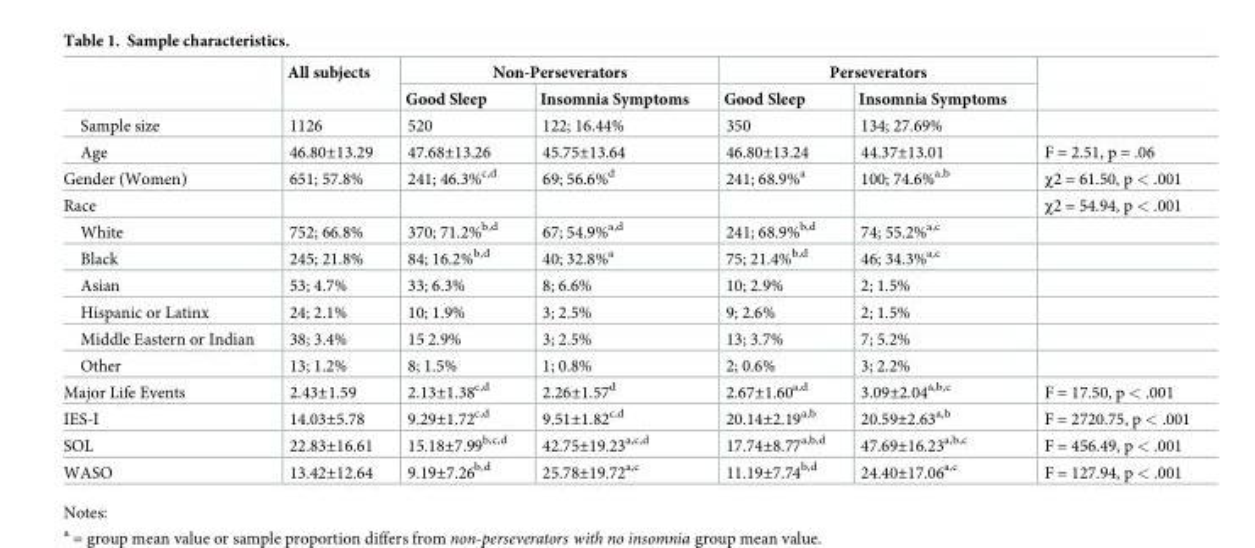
<table><thead><tr><td rowspan="2"></td><td rowspan="2">All subjects</td><td colspan="2">Non-Perseverators</td><td colspan="2">Perseverators</td><td rowspan="2"></td></tr><tr><td>Good Sleep</td><td>Insomnia Symptoms</td><td>Good Sleep</td><td>Insomnia Symptoms</td></tr></thead><tbody><tr><td>Sample size</td><td>1126</td><td>520</td><td>122; 16.44%</td><td>350</td><td>134; 27.69%</td><td></td></tr><tr><td>Age</td><td>46.80±13.29</td><td>47.68±13.26</td><td>45.75±13.64</td><td>46.80±13.24</td><td>44.37±13.01</td><td>F = 2.51, p = .06</td></tr><tr><td>Gender (Women)</td><td>651; 57.8%</td><td>241; 46.3%<sup>c,d</sup></td><td>69; 56.6%<sup>d</sup></td><td>241; 68.9%<sup>a</sup></td><td>100; 74.6%<sup>a,b</sup></td><td>χ2 = 61.50, p &lt; .001</td></tr><tr><td>Race</td><td></td><td></td><td></td><td></td><td></td><td>χ2 = 54.94, p &lt; .001</td></tr><tr><td>White</td><td>752; 66.8%</td><td>370; 71.2%<sup>b,d</sup></td><td>67; 54.9%<sup>a,d</sup></td><td>241; 68.9%<sup>b,d</sup></td><td>74; 55.2%<sup>a,c</sup></td><td></td></tr><tr><td>Black</td><td>245; 21.8%</td><td>84; 16.2%<sup>b,d</sup></td><td>40; 32.8%<sup>a</sup></td><td>75; 21.4%<sup>b,d</sup></td><td>46; 34.3%<sup>a,c</sup></td><td></td></tr><tr><td>Asian</td><td>53; 4.7%</td><td>33; 6.3%</td><td>8; 6.6%</td><td>10; 2.9%</td><td>2; 1.5%</td><td></td></tr><tr><td>Hispanic or Latinx</td><td>24; 2.1%</td><td>10; 1.9%</td><td>3; 2.5%</td><td>9; 2.6%</td><td>2; 1.5%</td><td></td></tr><tr><td>Middle Eastern or Indian</td><td>38; 3.4%</td><td>15 2.9%</td><td>3; 2.5%</td><td>13; 3.7%</td><td>7; 5.2%</td><td></td></tr><tr><td>Other</td><td>13; 1.2%</td><td>8; 1.5%</td><td>1; 0.8%</td><td>2; 0.6%</td><td>3; 2.2%</td><td></td></tr><tr><td>Major Life Events</td><td>2.43±1.59</td><td>2.13±1.38<sup>c,d</sup></td><td>2.26±1.57<sup>d</sup></td><td>2.67±1.60<sup>a,d</sup></td><td>3.09±2.04<sup>a,b,c</sup></td><td>F = 17.50, p &lt; .001</td></tr><tr><td>IES-I</td><td>14.03±5.78</td><td>9.29±1.72<sup>c,d</sup></td><td>9.51±1.82<sup>c,d</sup></td><td>20.14±2.19<sup>a,b</sup></td><td>20.59±2.63<sup>a,b</sup></td><td>F = 2720.75, p &lt; .001</td></tr><tr><td>SOL</td><td>22.83±16.61</td><td>15.18±7.99<sup>b,c,d</sup></td><td>42.75±19.23<sup>a,c,d</sup></td><td>17.74±8.77<sup>a,b,d</sup></td><td>47.69±16.23<sup>a,b,c</sup></td><td>F = 456.49, p &lt; .001</td></tr><tr><td>WASO</td><td>13.42±12.64</td><td>9.19±7.26<sup>b,d</sup></td><td>25.78±19.72<sup>a,c</sup></td><td>11.19±7.74<sup>b,d</sup></td><td>24.40±17.06<sup>a,c</sup></td><td>F = 127.94, p &lt; .001</td></tr></tbody></table>